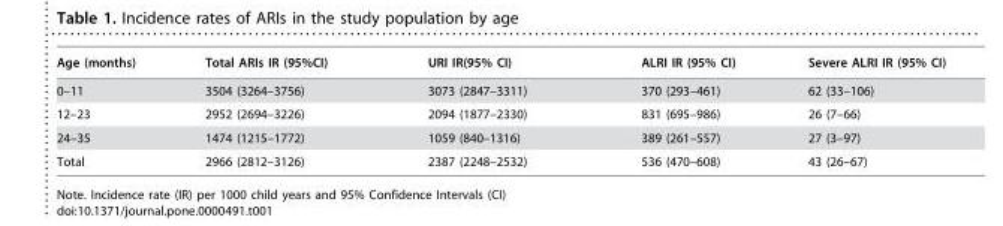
<table><thead><tr><td>Age (months)</td><td>Total ARIs IR (95%CI)</td><td>URI IR(95% CI)</td><td>ALRI IR (95% CI)</td><td>Severe ALRI IR (95% CI)</td></tr></thead><tbody><tr><td>0–11</td><td>3504 (3264–3756)</td><td>3073 (2847–3311)</td><td>370 (293–461)</td><td>62 (33–106)</td></tr><tr><td>12–23</td><td>2952 (2694–3226)</td><td>2094 (1877–2330)</td><td>831 (695–986)</td><td>26 (7–66)</td></tr><tr><td>24–35</td><td>1474 (1215–1772)</td><td>1059 (840–1316)</td><td>389 (261–557)</td><td>27 (3–97)</td></tr><tr><td>Total</td><td>2966 (2812–3126)</td><td>2387 (2248–2532)</td><td>536 (470–608)</td><td>43 (26–67)</td></tr></tbody></table>